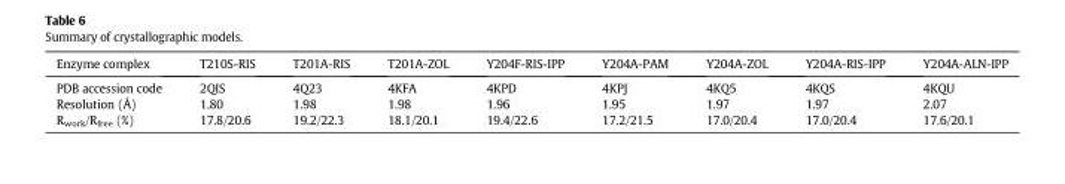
<table><thead><tr><td>Enzyme complex</td><td>T210S-RIS</td><td>T201A-RIS</td><td>T201A-ZOL</td><td>Y204F-RIS-IPP</td><td>Y204A-PAM</td><td>Y204A-ZOL</td><td>Y204A-RIS-IPP</td><td>Y204A-ALN-IPP</td></tr></thead><tbody><tr><td>PDB accession code</td><td>2QIS</td><td>4Q23</td><td>4KFA</td><td>4KPD</td><td>4KPJ</td><td>4KQ5</td><td>4KQS</td><td>4KQU</td></tr><tr><td>Resolution (Å)</td><td>1.80</td><td>1.98</td><td>1.98</td><td>1.96</td><td>1.95</td><td>1.97</td><td>1.97</td><td>2.07</td></tr><tr><td>R<sub>work</sub>/R<sub>free</sub> (%)</td><td>17.8/20.6</td><td>19.2/22.3</td><td>18.1/20.1</td><td>19.4/22.6</td><td>17.2/21.5</td><td>17.0/20.4</td><td>17.0/20.4</td><td>17.6/20.1</td></tr></tbody></table>